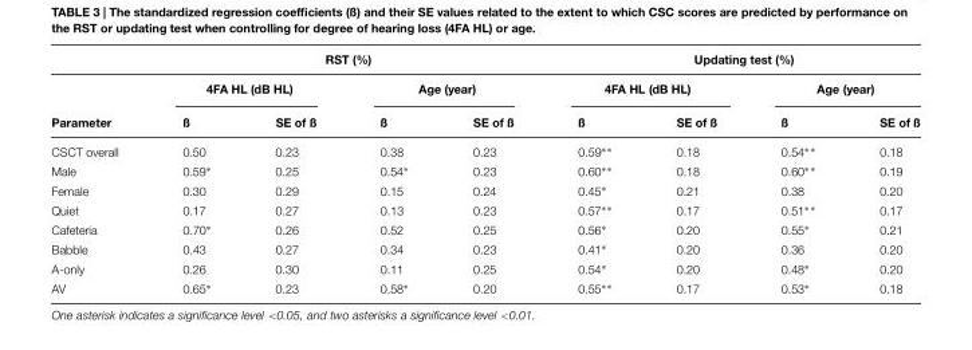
<table><thead><tr><td rowspan="3">Parameter</td><td colspan="4">RST (%)</td><td colspan="4">Updating test (%)</td></tr><tr><td colspan="2">4FA HL (dB HL)</td><td colspan="2">Age (year)</td><td colspan="2">4FA HL (dB HL)</td><td colspan="2">Age (year)</td></tr><tr><td>ß</td><td>SE of ß</td><td>ß</td><td>SE of ß</td><td>ß</td><td>SE of ß</td><td>ß</td><td>SE of ß</td></tr></thead><tbody><tr><td>CSCT overall</td><td>0.50</td><td>0.23</td><td>0.38</td><td>0.23</td><td>0.59∗∗</td><td>0.18</td><td>0.54∗∗</td><td>0.18</td></tr><tr><td>Male</td><td>0.59∗</td><td>0.25</td><td>0.54∗</td><td>0.23</td><td>0.60∗∗</td><td>0.18</td><td>0.60∗∗</td><td>0.19</td></tr><tr><td>Female</td><td>0.30</td><td>0.29</td><td>0.15</td><td>0.24</td><td>0.45∗</td><td>0.21</td><td>0.38</td><td>0.20</td></tr><tr><td>Quiet</td><td>0.17</td><td>0.27</td><td>0.13</td><td>0.23</td><td>0.57∗∗</td><td>0.17</td><td>0.51∗∗</td><td>0.17</td></tr><tr><td>Cafeteria</td><td>0.70∗</td><td>0.26</td><td>0.52</td><td>0.25</td><td>0.56∗</td><td>0.20</td><td>0.55∗</td><td>0.21</td></tr><tr><td>Babble</td><td>0.43</td><td>0.27</td><td>0.34</td><td>0.23</td><td>0.41∗</td><td>0.20</td><td>0.36</td><td>0.20</td></tr><tr><td>A-only</td><td>0.26</td><td>0.30</td><td>0.11</td><td>0.25</td><td>0.54∗</td><td>0.20</td><td>0.48∗</td><td>0.20</td></tr><tr><td>AV</td><td>0.65∗</td><td>0.23</td><td>0.58∗</td><td>0.20</td><td>0.55∗∗</td><td>0.17</td><td>0.53∗</td><td>0.18</td></tr></tbody></table>